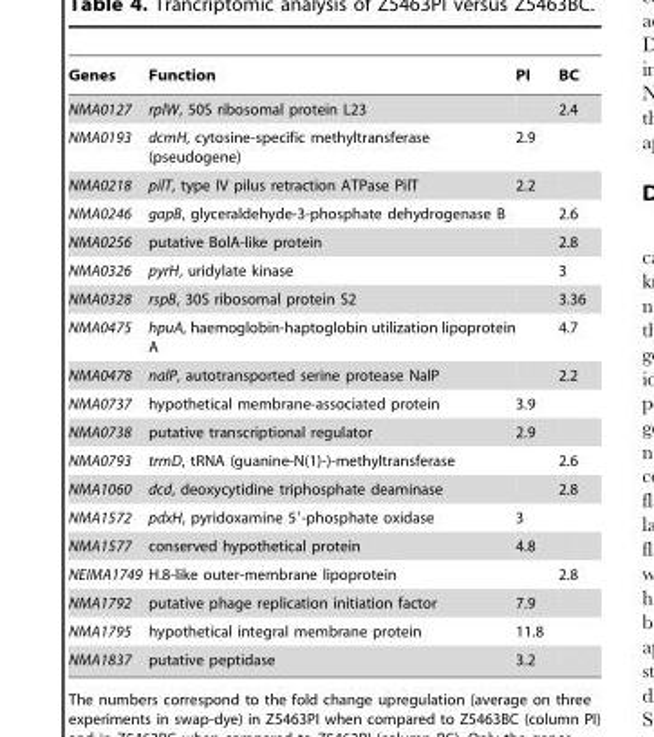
<table><thead><tr><td>Genes</td><td>Function</td><td>PI</td><td>BC</td></tr></thead><tbody><tr><td>NMA0127</td><td>rplW, 50S ribosomal protein L23</td><td></td><td>2.4</td></tr><tr><td>NMA0193</td><td>dcmH, cytosine-specific methyltransferase (pseudogene)</td><td>2.9</td><td></td></tr><tr><td>NMA0218</td><td>pilT, type IV pilus retraction ATPase PilT</td><td>2.2</td><td></td></tr><tr><td>NMA0246</td><td>gapB, glyceraldehyde-3-phosphate dehydrogenase B</td><td></td><td>2.6</td></tr><tr><td>NMA0256</td><td>putative BolA-like protein</td><td></td><td>2.8</td></tr><tr><td>NMA0326</td><td>pyrH, uridylate kinase</td><td></td><td>3</td></tr><tr><td>NMA0328</td><td>rspB, 30S ribosomal protein S2</td><td></td><td>3.36</td></tr><tr><td>NMA0475</td><td>hpuA, haemoglobin-haptoglobin utilization lipoprotein A</td><td></td><td>4.7</td></tr><tr><td>NMA0478</td><td>nalP, autotransported serine protease NalP</td><td></td><td>2.2</td></tr><tr><td>NMA0737</td><td>hypothetical membrane-associated protein</td><td>3.9</td><td></td></tr><tr><td>NMA0738</td><td>putative transcriptional regulator</td><td>2.9</td><td></td></tr><tr><td>NMA0793</td><td>trmD, tRNA (guanine-N(1)-)-methyltransferase</td><td></td><td>2.6</td></tr><tr><td>NMA1060</td><td>dcd, deoxycytidine triphosphate deaminase</td><td></td><td>2.8</td></tr><tr><td>NMA1572</td><td>pdxH, pyridoxamine 5′-phosphate oxidase</td><td>3</td><td></td></tr><tr><td>NMA1577</td><td>conserved hypothetical protein</td><td>4.8</td><td></td></tr><tr><td>NEIMA1749</td><td>H.8-like outer-membrane lipoprotein</td><td></td><td>2.8</td></tr><tr><td>NMA1792</td><td>putative phage replication initiation factor</td><td>7.9</td><td></td></tr><tr><td>NMA1795</td><td>hypothetical integral membrane protein</td><td>11.8</td><td></td></tr><tr><td>NMA1837</td><td>putative peptidase</td><td>3.2</td><td></td></tr></tbody></table>